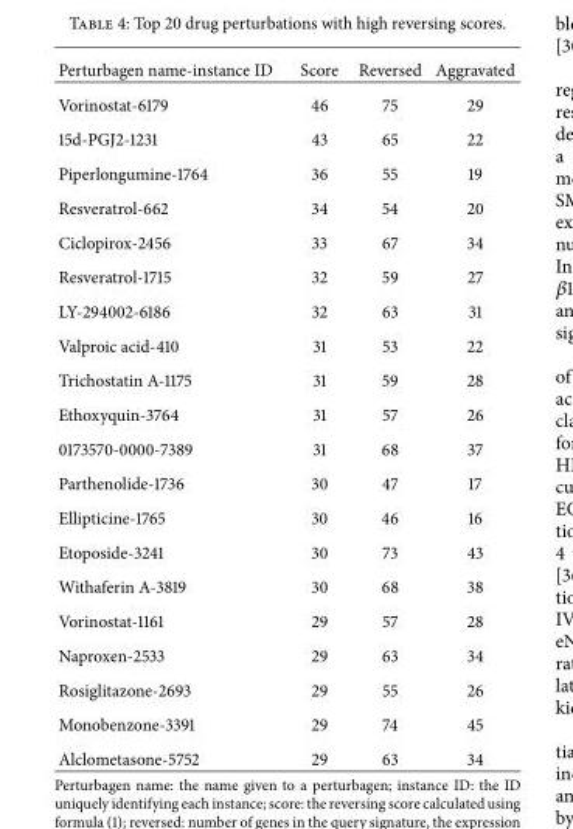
<table><thead><tr><td>Perturbagen name-instance ID</td><td>Score</td><td>Reversed</td><td>Aggravated</td></tr></thead><tbody><tr><td>Vorinostat-6179</td><td>46</td><td>75</td><td>29</td></tr><tr><td>15d-PGJ2-1231</td><td>43</td><td>65</td><td>22</td></tr><tr><td>Piperlongumine-1764</td><td>36</td><td>55</td><td>19</td></tr><tr><td>Resveratrol-662</td><td>34</td><td>54</td><td>20</td></tr><tr><td>Ciclopirox-2456</td><td>33</td><td>67</td><td>34</td></tr><tr><td>Resveratrol-1715</td><td>32</td><td>59</td><td>27</td></tr><tr><td>LY-294002-6186</td><td>32</td><td>63</td><td>31</td></tr><tr><td>Valproic acid-410</td><td>31</td><td>53</td><td>22</td></tr><tr><td>Trichostatin A-1175</td><td>31</td><td>59</td><td>28</td></tr><tr><td>Ethoxyquin-3764</td><td>31</td><td>57</td><td>26</td></tr><tr><td>0173570-0000-7389</td><td>31</td><td>68</td><td>37</td></tr><tr><td>Parthenolide-1736</td><td>30</td><td>47</td><td>17</td></tr><tr><td>Ellipticine-1765</td><td>30</td><td>46</td><td>16</td></tr><tr><td>Etoposide-3241</td><td>30</td><td>73</td><td>43</td></tr><tr><td>Withaferin A-3819</td><td>30</td><td>68</td><td>38</td></tr><tr><td>Vorinostat-1161</td><td>29</td><td>57</td><td>28</td></tr><tr><td>Naproxen-2533</td><td>29</td><td>63</td><td>34</td></tr><tr><td>Rosiglitazone-2693</td><td>29</td><td>55</td><td>26</td></tr><tr><td>Monobenzone-3391</td><td>29</td><td>74</td><td>45</td></tr><tr><td>Alclometasone-5752</td><td>29</td><td>63</td><td>34</td></tr></tbody></table>